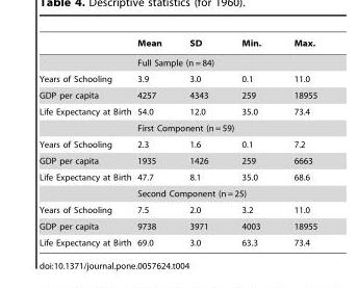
<table><thead><tr><td></td><td>Mean</td><td>SD</td><td>Min.</td><td>Max.</td></tr></thead><tbody><tr><td></td><td colspan="4">Full Sample (n = 84)</td></tr><tr><td>Years of Schooling</td><td>3.9</td><td>3.0</td><td>0.1</td><td>11.0</td></tr><tr><td>GDP per capita</td><td>4257</td><td>4343</td><td>259</td><td>18955</td></tr><tr><td rowspan="2">Life Expectancy at Birth</td><td>54.0</td><td>12.0</td><td>35.0</td><td>73.4</td></tr><tr><td colspan="4">First Component (n = 59)</td></tr><tr><td>Years of Schooling</td><td>2.3</td><td>1.6</td><td>0.1</td><td>7.2</td></tr><tr><td>GDP per capita</td><td>1935</td><td>1426</td><td>259</td><td>6663</td></tr><tr><td rowspan="2">Life Expectancy at Birth</td><td>47.7</td><td>8.1</td><td>35.0</td><td>68.6</td></tr><tr><td colspan="4">Second Component (n = 25)</td></tr><tr><td>Years of Schooling</td><td>7.5</td><td>2.0</td><td>3.2</td><td>11.0</td></tr><tr><td>GDP per capita</td><td>9738</td><td>3971</td><td>4003</td><td>18955</td></tr><tr><td>Life Expectancy at Birth</td><td>69.0</td><td>3.0</td><td>63.3</td><td>73.4</td></tr></tbody></table>